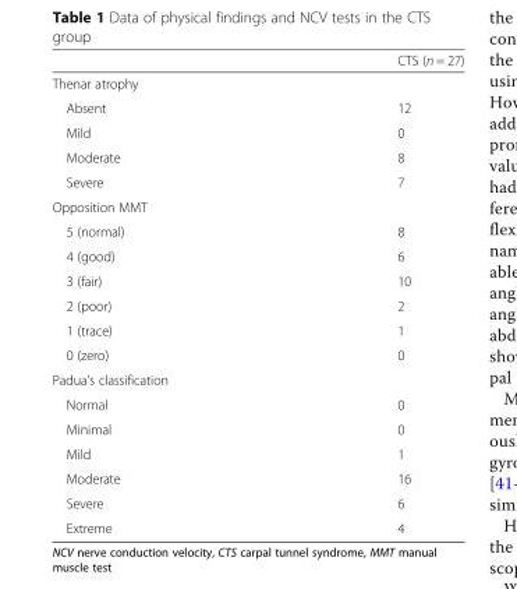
<table><thead><tr><td></td><td>CTS (n = 27)</td></tr></thead><tbody><tr><td colspan="2">Thenar atrophy</td></tr><tr><td>Absent</td><td>12</td></tr><tr><td>Mild</td><td>0</td></tr><tr><td>Moderate</td><td>8</td></tr><tr><td>Severe</td><td>7</td></tr><tr><td colspan="2">Opposition MMT</td></tr><tr><td>5 (normal)</td><td>8</td></tr><tr><td>4 (good)</td><td>6</td></tr><tr><td>3 (fair)</td><td>10</td></tr><tr><td>2 (poor)</td><td>2</td></tr><tr><td>1 (trace)</td><td>1</td></tr><tr><td>0 (zero)</td><td>0</td></tr><tr><td colspan="2">Padua’s classification</td></tr><tr><td>Normal</td><td>0</td></tr><tr><td>Minimal</td><td>0</td></tr><tr><td>Mild</td><td>1</td></tr><tr><td>Moderate</td><td>16</td></tr><tr><td>Severe</td><td>6</td></tr><tr><td>Extreme</td><td>4</td></tr></tbody></table>